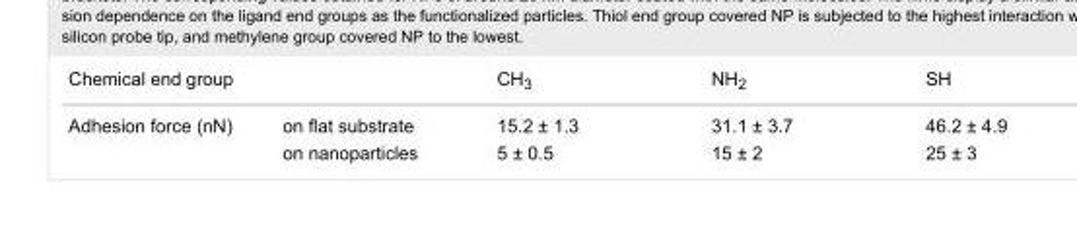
<table><tbody><tr><td colspan="2">Chemical end group</td><td>CH<sub>3</sub></td><td>NH<sub>2</sub></td><td>SH</td></tr><tr><td rowspan="2">Adhesion force (nN)</td><td>on flat substrate</td><td>15.2 ± 1.3</td><td>31.1 ± 3.7</td><td>46.2 ± 4.9</td></tr><tr><td>on nanoparticles</td><td>5 ± 0.5</td><td>15 ± 2</td><td>25 ± 3</td></tr></tbody></table>